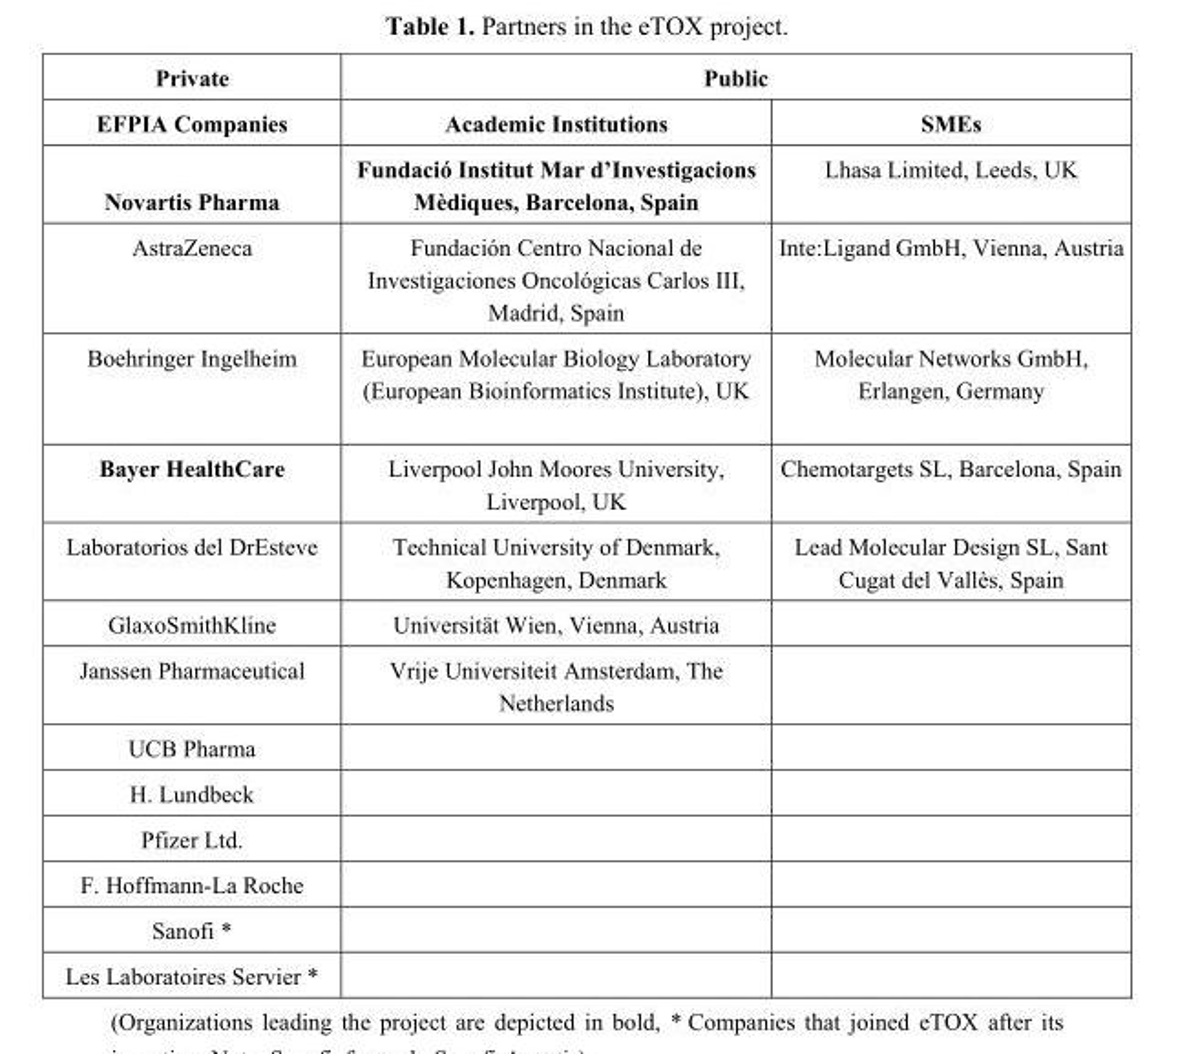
<table><thead><tr><td rowspan="2">Private EFPIA Companies</td><td colspan="2">Public</td></tr><tr><td>Academic Institutions</td><td>SMEs</td></tr></thead><tbody><tr><td>Novartis Pharma</td><td>Fundació Institut Mar d’Investigacions Mèdiques, Barcelona, Spain</td><td>Lhasa Limited, Leeds, UK</td></tr><tr><td>AstraZeneca</td><td>Fundación Centro Nacional de Investigaciones Oncológicas Carlos III, Madrid, Spain</td><td>Inte:Ligand GmbH, Vienna, Austria</td></tr><tr><td>Boehringer Ingelheim</td><td>European Molecular Biology Laboratory (European Bioinformatics Institute), UK</td><td>Molecular Networks GmbH, Erlangen, Germany</td></tr><tr><td>Bayer HealthCare</td><td>Liverpool John Moores University, Liverpool, UK</td><td>Chemotargets SL, Barcelona, Spain</td></tr><tr><td>Laboratorios del DrEsteve</td><td>Technical University of Denmark, Kopenhagen, Denmark</td><td>Lead Molecular Design SL, Sant Cugat del Vallès, Spain</td></tr><tr><td>GlaxoSmithKline</td><td>Universität Wien, Vienna, Austria</td><td></td></tr><tr><td>Janssen Pharmaceutical</td><td>Vrije Universiteit Amsterdam, The Netherlands</td><td></td></tr><tr><td colspan="3">UCB Pharma</td></tr><tr><td colspan="3">H. Lundbeck</td></tr><tr><td colspan="3">Pfizer Ltd.</td></tr><tr><td colspan="3">F. Hoffmann-La Roche</td></tr><tr><td colspan="3">Sanofi *</td></tr><tr><td>Les Laboratoires Servier *</td><td></td><td></td></tr></tbody></table>